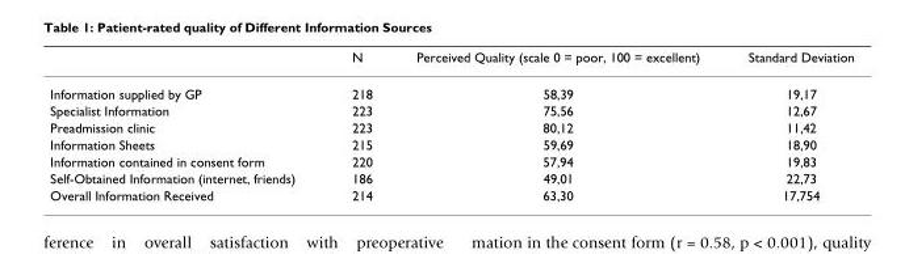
<table><thead><tr><td></td><td>N</td><td>Perceived Quality (scale 0 = poor, 100 = excellent)</td><td>Standard Deviation</td></tr></thead><tbody><tr><td>Information supplied by GP</td><td>218</td><td>58,39</td><td>19,17</td></tr><tr><td>Specialist Information</td><td>223</td><td>75,56</td><td>12,67</td></tr><tr><td>Preadmission clinic</td><td>223</td><td>80,12</td><td>11,42</td></tr><tr><td>Information Sheets</td><td>215</td><td>59,69</td><td>18,90</td></tr><tr><td>Information contained in consent form</td><td>220</td><td>57,94</td><td>19,83</td></tr><tr><td>Self-Obtained Information (internet, friends)</td><td>186</td><td>49,01</td><td>22,73</td></tr><tr><td>Overall Information Received</td><td>214</td><td>63,30</td><td>17,754</td></tr></tbody></table>